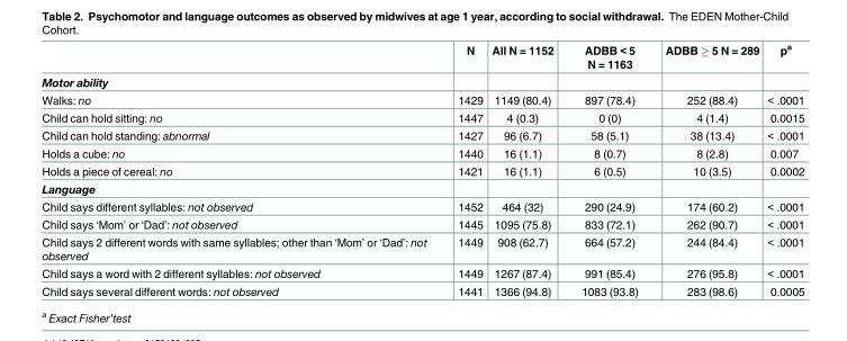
<table><thead><tr><td></td><td>N</td><td>All N = 1152</td><td>ADBB &lt; 5 N = 1163</td><td>ADBB ≥ 5 N = 289</td><td>p<sup>a</sup></td></tr></thead><tbody><tr><td colspan="6">Motor ability</td></tr><tr><td>Walks: no</td><td>1429</td><td>1149 (80.4)</td><td>897 (78.4)</td><td>252 (88.4)</td><td>&lt; .0001</td></tr><tr><td>Child can hold sitting: no</td><td>1447</td><td>4 (0.3)</td><td>0 (0)</td><td>4 (1.4)</td><td>0.0015</td></tr><tr><td>Child can hold standing: abnormal</td><td>1427</td><td>96 (6.7)</td><td>58 (5.1)</td><td>38 (13.4)</td><td>&lt; .0001</td></tr><tr><td>Holds a cube: no</td><td>1440</td><td>16 (1.1)</td><td>8 (0.7)</td><td>8 (2.8)</td><td>0.007</td></tr><tr><td>Holds a piece of cereal: no</td><td>1421</td><td>16 (1.1)</td><td>6 (0.5)</td><td>10 (3.5)</td><td>0.0002</td></tr><tr><td colspan="6">Language</td></tr><tr><td>Child says different syllables: not observed</td><td>1452</td><td>464 (32)</td><td>290 (24.9)</td><td>174 (60.2)</td><td>&lt; .0001</td></tr><tr><td>Child says ‘Mom’ or ‘Dad’: not observed</td><td>1445</td><td>1095 (75.8)</td><td>833 (72.1)</td><td>262 (90.7)</td><td>&lt; .0001</td></tr><tr><td>Child says 2 different words with same syllables; other than ‘Mom’ or ‘Dad’: not observed</td><td>1449</td><td>908 (62.7)</td><td>664 (57.2)</td><td>244 (84.4)</td><td>&lt; .0001</td></tr><tr><td>Child says a word with 2 different syllables: not observed</td><td>1449</td><td>1267 (87.4)</td><td>991 (85.4)</td><td>276 (95.8)</td><td>&lt; .0001</td></tr><tr><td>Child says several different words: not observed</td><td>1441</td><td>1366 (94.8)</td><td>1083 (93.8)</td><td>283 (98.6)</td><td>0.0005</td></tr></tbody></table>